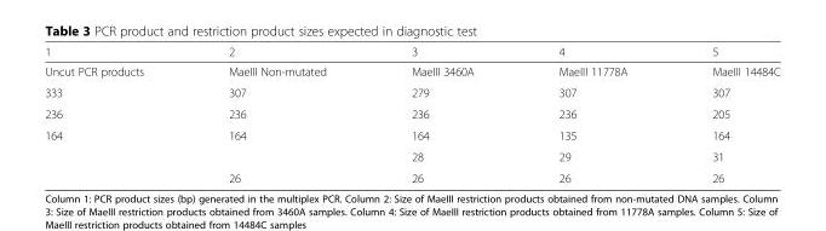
<table><thead><tr><td>1</td><td>2</td><td>3</td><td>4</td><td>5</td></tr></thead><tbody><tr><td>Uncut PCR products</td><td>MaeIII Non-mutated</td><td>MaeIII 3460A</td><td>MaeIII 11778A</td><td>MaeIII 14484C</td></tr><tr><td>333</td><td>307</td><td>279</td><td>307</td><td>307</td></tr><tr><td>236</td><td>236</td><td>236</td><td>236</td><td>205</td></tr><tr><td rowspan="3">164</td><td>164</td><td>164</td><td>135</td><td>164</td></tr><tr><td></td><td>28</td><td>29</td><td>31</td></tr><tr><td>26</td><td>26</td><td>26</td><td>26</td></tr></tbody></table>